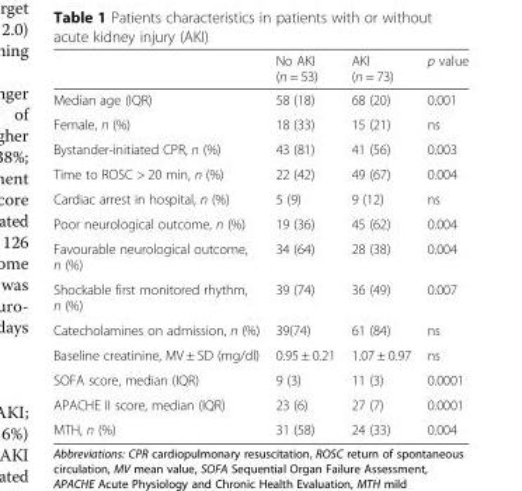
<table><thead><tr><td></td><td>No AKI (n = 53)</td><td>AKI (n = 73)</td><td>p value</td></tr></thead><tbody><tr><td>Median age (IQR)</td><td>58 (18)</td><td>68 (20)</td><td>0.001</td></tr><tr><td>Female, n (%)</td><td>18 (33)</td><td>15 (21)</td><td>ns</td></tr><tr><td>Bystander-initiated CPR, n (%)</td><td>43 (81)</td><td>41 (56)</td><td>0.003</td></tr><tr><td>Time to ROSC &gt; 20 min, n (%)</td><td>22 (42)</td><td>49 (67)</td><td>0.004</td></tr><tr><td>Cardiac arrest in hospital, n (%)</td><td>5 (9)</td><td>9 (12)</td><td>ns</td></tr><tr><td>Poor neurological outcome, n (%)</td><td>19 (36)</td><td>45 (62)</td><td>0.004</td></tr><tr><td>Favourable neurological outcome, n (%)</td><td>34 (64)</td><td>28 (38)</td><td>0.004</td></tr><tr><td>Shockable first monitored rhythm, n (%)</td><td>39 (74)</td><td>36 (49)</td><td>0.007</td></tr><tr><td>Catecholamines on admission, n (%)</td><td>39(74)</td><td>61 (84)</td><td>ns</td></tr><tr><td>Baseline creatinine, MV ± SD (mg/dl)</td><td>0.95 ± 0.21</td><td>1.07 ± 0.97</td><td>ns</td></tr><tr><td>SOFA score, median (IQR)</td><td>9 (3)</td><td>11 (3)</td><td>0.0001</td></tr><tr><td>APACHE II score, median (IQR)</td><td>23 (6)</td><td>27 (7)</td><td>0.0001</td></tr><tr><td>MTH, n (%)</td><td>31 (58)</td><td>24 (33)</td><td>0.004</td></tr></tbody></table>